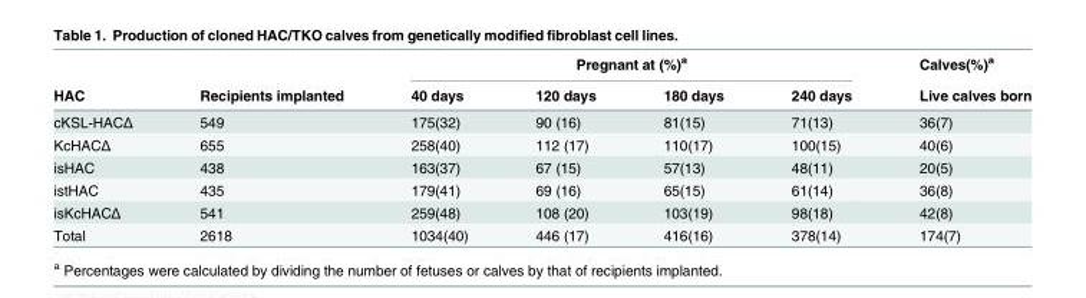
<table><thead><tr><td rowspan="2">HAC</td><td rowspan="2">Recipients implanted</td><td colspan="4">Pregnant at (%)<sup>a</sup></td><td rowspan="2">Calves(%)<sup>a</sup> Live calves born</td></tr><tr><td>40 days</td><td>120 days</td><td>180 days</td><td>240 days</td></tr></thead><tbody><tr><td>cKSL-HACΔ</td><td>549</td><td>175(32)</td><td>90 (16)</td><td>81(15)</td><td>71(13)</td><td>36(7)</td></tr><tr><td>KcHACΔ</td><td>655</td><td>258(40)</td><td>112 (17)</td><td>110(17)</td><td>100(15)</td><td>40(6)</td></tr><tr><td>isHAC</td><td>438</td><td>163(37)</td><td>67 (15)</td><td>57(13)</td><td>48(11)</td><td>20(5)</td></tr><tr><td>istHAC</td><td>435</td><td>179(41)</td><td>69 (16)</td><td>65(15)</td><td>61(14)</td><td>36(8)</td></tr><tr><td>isKcHACΔ</td><td>541</td><td>259(48)</td><td>108 (20)</td><td>103(19)</td><td>98(18)</td><td>42(8)</td></tr><tr><td>Total</td><td>2618</td><td>1034(40)</td><td>446 (17)</td><td>416(16)</td><td>378(14)</td><td>174(7)</td></tr></tbody></table>